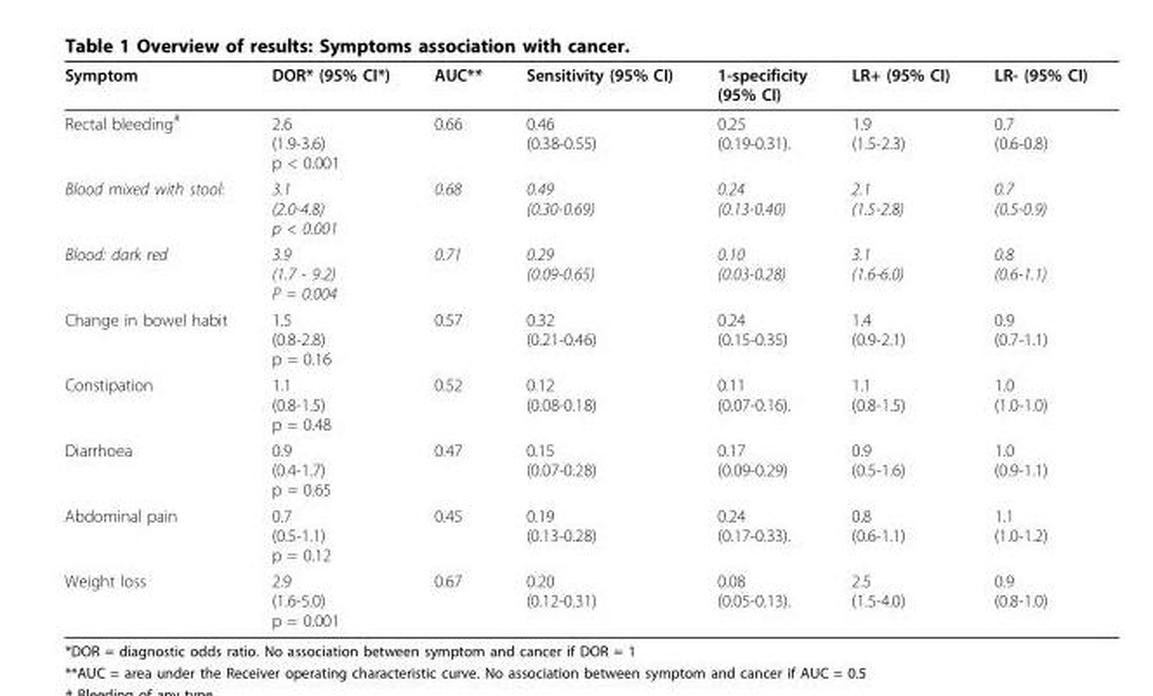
<table><thead><tr><td>Symptom</td><td>DOR* (95% CI*)</td><td>AUC**</td><td>Sensitivity (95% CI)</td><td>1-specificity (95% CI)</td><td>LR+ (95% CI)</td><td>LR- (95% CI)</td></tr></thead><tbody><tr><td>Rectal bleeding<sup>#</sup></td><td>2.6 (1.9-3.6) p &lt; 0.001</td><td>0.66</td><td>0.46 (0.38-0.55)</td><td>0.25 (0.19-0.31).</td><td>1.9 (1.5-2.3)</td><td>0.7 (0.6-0.8)</td></tr><tr><td>Blood mixed with stool:</td><td>3.1 (2.0-4.8) p &lt; 0.001</td><td>0.68</td><td>0.49 (0.30-0.69)</td><td>0.24 (0.13-0.40)</td><td>2.1 (1.5-2.8)</td><td>0.7 (0.5-0.9)</td></tr><tr><td>Blood: dark red</td><td>3.9 (1.7 - 9.2) P = 0.004</td><td>0.71</td><td>0.29 (0.09-0.65)</td><td>0.10 (0.03-0.28)</td><td>3.1 (1.6-6.0)</td><td>0.8 (0.6-1.1)</td></tr><tr><td>Change in bowel habit</td><td>1.5 (0.8-2.8) p = 0.16</td><td>0.57</td><td>0.32 (0.21-0.46)</td><td>0.24 (0.15-0.35)</td><td>1.4 (0.9-2.1)</td><td>0.9 (0.7-1.1)</td></tr><tr><td>Constipation</td><td>1.1 (0.8-1.5) p = 0.48</td><td>0.52</td><td>0.12 (0.08-0.18)</td><td>0.11 (0.07-0.16).</td><td>1.1 (0.8-1.5)</td><td>1.0 (1.0-1.0)</td></tr><tr><td>Diarrhoea</td><td>0.9 (0.4-1.7) p = 0.65</td><td>0.47</td><td>0.15 (0.07-0.28)</td><td>0.17 (0.09-0.29)</td><td>0.9 (0.5-1.6)</td><td>1.0 (0.9-1.1)</td></tr><tr><td>Abdominal pain</td><td>0.7 (0.5-1.1) p = 0.12</td><td>0.45</td><td>0.19 (0.13-0.28)</td><td>0.24 (0.17-0.33).</td><td>0.8 (0.6-1.1)</td><td>1.1 (1.0-1.2)</td></tr><tr><td>Weight loss</td><td>2.9 (1.6-5.0) p = 0.001</td><td>0.67</td><td>0.20 (0.12-0.31)</td><td>0.08 (0.05-0.13).</td><td>2.5 (1.5-4.0)</td><td>0.9 (0.8-1.0)</td></tr></tbody></table>